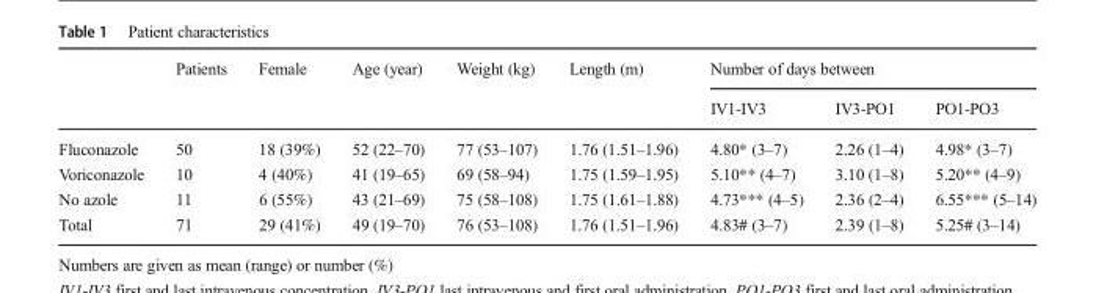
<table><thead><tr><td rowspan="2"></td><td rowspan="2">Patients</td><td rowspan="2">Female</td><td rowspan="2">Age (year)</td><td rowspan="2">Weight (kg)</td><td rowspan="2">Length (m)</td><td colspan="3">Number of days between</td></tr><tr><td>IV1-IV3</td><td>IV3-PO1</td><td>PO1-PO3</td></tr></thead><tbody><tr><td>Fluconazole</td><td>50</td><td>18 (39%)</td><td>52 (22–70)</td><td>77 (53–107)</td><td>1.76 (1.51–1.96)</td><td>4.80* (3–7)</td><td>2.26 (1–4)</td><td>4.98* (3–7)</td></tr><tr><td>Voriconazole</td><td>10</td><td>4 (40%)</td><td>41 (19–65)</td><td>69 (58–94)</td><td>1.75 (1.59–1.95)</td><td>5.10** (4–7)</td><td>3.10 (1–8)</td><td>5.20** (4–9)</td></tr><tr><td>No azole</td><td>11</td><td>6 (55%)</td><td>43 (21–69)</td><td>75 (58–108)</td><td>1.75 (1.61–1.88)</td><td>4.73*** (4–5)</td><td>2.36 (2–4)</td><td>6.55*** (5–14)</td></tr><tr><td>Total</td><td>71</td><td>29 (41%)</td><td>49 (19–70)</td><td>76 (53–108)</td><td>1.76 (1.51–1.96)</td><td>4.83# (3–7)</td><td>2.39 (1–8)</td><td>5.25# (3–14)</td></tr></tbody></table>